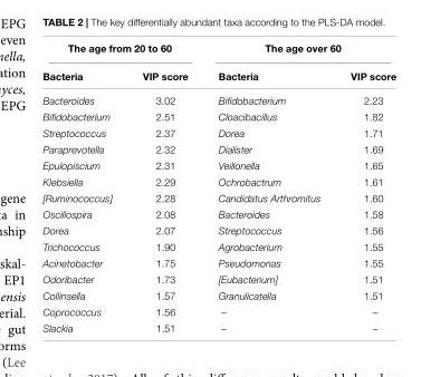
<table><thead><tr><td colspan="2">The age from 20 to 60</td><td colspan="2">The age over 60</td></tr><tr><td>Bacteria</td><td>VIP score</td><td>Bacteria</td><td>VIP score</td></tr></thead><tbody><tr><td>Bacteroides</td><td>3.02</td><td>Bifidobacterium</td><td>2.23</td></tr><tr><td>Bifidobacterium</td><td>2.51</td><td>Cloacibacillus</td><td>1.82</td></tr><tr><td>Streptococcus</td><td>2.37</td><td>Dorea</td><td>1.71</td></tr><tr><td>Paraprevotella</td><td>2.32</td><td>Dialister</td><td>1.69</td></tr><tr><td>Epulopiscium</td><td>2.31</td><td>Veillonella</td><td>1.65</td></tr><tr><td>Klebsiella</td><td>2.29</td><td>Ochrobactrum</td><td>1.61</td></tr><tr><td>[Ruminococcus]</td><td>2.28</td><td>Candidatus Arthromitus</td><td>1.60</td></tr><tr><td>Oscillospira</td><td>2.08</td><td>Bacteroides</td><td>1.58</td></tr><tr><td>Dorea</td><td>2.07</td><td>Streptococcus</td><td>1.56</td></tr><tr><td>Trichococcus</td><td>1.90</td><td>Agrobacterium</td><td>1.55</td></tr><tr><td>Acinetobacter</td><td>1.75</td><td>Pseudomonas</td><td>1.55</td></tr><tr><td>Odoribacter</td><td>1.73</td><td>[Eubacterium]</td><td>1.51</td></tr><tr><td>Collinsella</td><td>1.57</td><td>Granulicatella</td><td>1.51</td></tr><tr><td>Coprococcus</td><td>1.56</td><td>–</td><td>–</td></tr><tr><td>Slackia</td><td>1.51</td><td>–</td><td>–</td></tr></tbody></table>